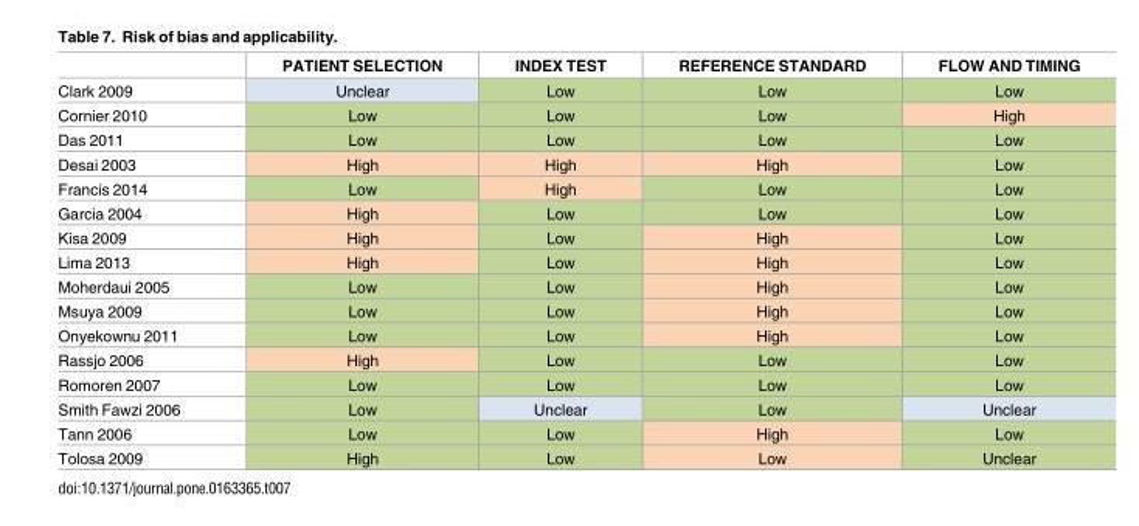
<table><thead><tr><td></td><td>PATIENT SELECTION</td><td>INDEX TEST</td><td>REFERENCE STANDARD</td><td>FLOW AND TIMING</td></tr></thead><tbody><tr><td>Clark 2009</td><td>Unclear</td><td>Low</td><td>Low</td><td>Low</td></tr><tr><td>Cornier 2010</td><td>Low</td><td>Low</td><td>Low</td><td>High</td></tr><tr><td>Das 2011</td><td>Low</td><td>Low</td><td>Low</td><td>Low</td></tr><tr><td>Desai 2003</td><td>High</td><td>High</td><td>High</td><td>Low</td></tr><tr><td>Francis 2014</td><td>Low</td><td>High</td><td>Low</td><td>Low</td></tr><tr><td>Garcia 2004</td><td>High</td><td>Low</td><td>Low</td><td>Low</td></tr><tr><td>Kisa 2009</td><td>High</td><td>Low</td><td>High</td><td>Low</td></tr><tr><td>Lima 2013</td><td>High</td><td>Low</td><td>High</td><td>Low</td></tr><tr><td>Moherdaui 2005</td><td>Low</td><td>Low</td><td>High</td><td>Low</td></tr><tr><td>Msuya 2009</td><td>Low</td><td>Low</td><td>High</td><td>Low</td></tr><tr><td>Onyekownu 2011</td><td>Low</td><td>Low</td><td>High</td><td>Low</td></tr><tr><td>Rassjo 2006</td><td>High</td><td>Low</td><td>Low</td><td>Low</td></tr><tr><td>Romoren 2007</td><td>Low</td><td>Low</td><td>Low</td><td>Low</td></tr><tr><td>Smith Fawzi 2006</td><td>Low</td><td>Unclear</td><td>Low</td><td>Unclear</td></tr><tr><td>Tann 2006</td><td>Low</td><td>Low</td><td>High</td><td>Low</td></tr><tr><td>Tolosa 2009</td><td>High</td><td>Low</td><td>Low</td><td>Unclear</td></tr></tbody></table>